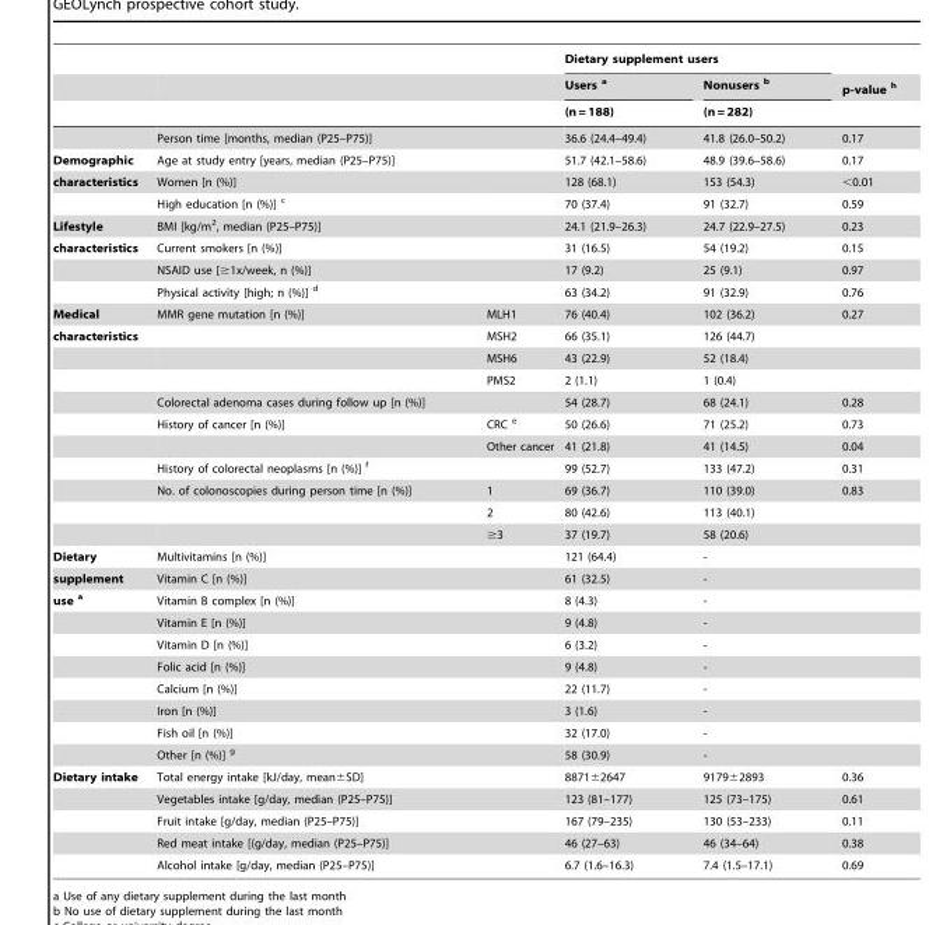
<table><thead><tr><td rowspan="3"></td><td rowspan="3"></td><td rowspan="3"></td><td colspan="2">Dietary supplement users</td><td rowspan="3">p-value <sup>h</sup></td></tr><tr><td rowspan="2">Users <sup>a</sup> (n = 188)</td><td rowspan="2">Nonusers <sup>b</sup> (n = 282)</td></tr><tr></tr></thead><tbody><tr><td></td><td>Person time [months, median (P25–P75)]</td><td></td><td>36.6 (24.4–49.4)</td><td>41.8 (26.0–50.2)</td><td>0.17</td></tr><tr><td>Demographic</td><td>Age at study entry [years, median (P25–P75)]</td><td></td><td>51.7 (42.1–58.6)</td><td>48.9 (39.6–58.6)</td><td>0.17</td></tr><tr><td rowspan="2">characteristics</td><td>Women [n (%)]</td><td></td><td>128 (68.1)</td><td>153 (54.3)</td><td>&lt;0.01</td></tr><tr><td>High education [n (%)] <sup>c</sup></td><td></td><td>70 (37.4)</td><td>91 (32.7)</td><td>0.59</td></tr><tr><td>Lifestyle</td><td>BMI [kg/m<sup>2</sup>, median (P25–P75)]</td><td></td><td>24.1 (21.9–26.3)</td><td>24.7 (22.9–27.5)</td><td>0.23</td></tr><tr><td rowspan="3">characteristics</td><td>Current smokers [n (%)]</td><td></td><td>31 (16.5)</td><td>54 (19.2)</td><td>0.15</td></tr><tr><td>NSAID use [≥1x/week, n (%)]</td><td></td><td>17 (9.2)</td><td>25 (9.1)</td><td>0.97</td></tr><tr><td>Physical activity [high; n (%)] <sup>d</sup></td><td></td><td>63 (34.2)</td><td>91 (32.9)</td><td>0.76</td></tr><tr><td>Medical</td><td>MMR gene mutation [n (%)]</td><td>MLH1</td><td>76 (40.4)</td><td>102 (36.2)</td><td>0.27</td></tr><tr><td rowspan="10">characteristics</td><td></td><td>MSH2</td><td>66 (35.1)</td><td>126 (44.7)</td><td></td></tr><tr><td></td><td>MSH6</td><td>43 (22.9)</td><td>52 (18.4)</td><td></td></tr><tr><td></td><td>PMS2</td><td>2 (1.1)</td><td>1 (0.4)</td><td></td></tr><tr><td>Colorectal adenoma cases during follow up [n (%)]</td><td></td><td>54 (28.7)</td><td>68 (24.1)</td><td>0.28</td></tr><tr><td>History of cancer [n (%)]</td><td>CRC <sup>e</sup></td><td>50 (26.6)</td><td>71 (25.2)</td><td>0.73</td></tr><tr><td></td><td>Other cancer</td><td>41 (21.8)</td><td>41 (14.5)</td><td>0.04</td></tr><tr><td>History of colorectal neoplasms [n (%)] <sup>f</sup></td><td></td><td>99 (52.7)</td><td>133 (47.2)</td><td>0.31</td></tr><tr><td>No. of colonoscopies during person time [n (%)]</td><td>1</td><td>69 (36.7)</td><td>110 (39.0)</td><td>0.83</td></tr><tr><td></td><td>2</td><td>80 (42.6)</td><td>113 (40.1)</td><td></td></tr><tr><td></td><td>≥3</td><td>37 (19.7)</td><td>58 (20.6)</td><td></td></tr><tr><td>Dietary</td><td>Multivitamins [n (%)]</td><td></td><td>121 (64.4)</td><td>-</td><td></td></tr><tr><td>supplement</td><td>Vitamin C [n (%)]</td><td></td><td>61 (32.5)</td><td>-</td><td></td></tr><tr><td rowspan="8">use <sup>a</sup></td><td>Vitamin B complex [n (%)]</td><td></td><td>8 (4.3)</td><td>-</td><td></td></tr><tr><td>Vitamin E [n (%)]</td><td></td><td>9 (4.8)</td><td>-</td><td></td></tr><tr><td>Vitamin D [n (%)]</td><td></td><td>6 (3.2)</td><td>-</td><td></td></tr><tr><td>Folic acid [n (%)]</td><td></td><td>9 (4.8)</td><td>-</td><td></td></tr><tr><td>Calcium [n (%)]</td><td></td><td>22 (11.7)</td><td>-</td><td></td></tr><tr><td>Iron [n (%)]</td><td></td><td>3 (1.6)</td><td>-</td><td></td></tr><tr><td>Fish oil [n (%)]</td><td></td><td>32 (17.0)</td><td>-</td><td></td></tr><tr><td>Other [n (%)] <sup>g</sup></td><td></td><td>58 (30.9)</td><td>-</td><td></td></tr><tr><td rowspan="5">Dietary intake</td><td>Total energy intake [kJ/day, mean±SD]</td><td></td><td>8871±2647</td><td>9179±2893</td><td>0.36</td></tr><tr><td>Vegetables intake [g/day, median (P25–P75)]</td><td></td><td>123 (81–177)</td><td>125 (73–175)</td><td>0.61</td></tr><tr><td>Fruit intake [g/day, median (P25–P75)]</td><td></td><td>167 (79–235)</td><td>130 (53–233)</td><td>0.11</td></tr><tr><td>Red meat intake [(g/day, median (P25–P75)]</td><td></td><td>46 (27–63)</td><td>46 (34–64)</td><td>0.38</td></tr><tr><td>Alcohol intake [g/day, median (P25–P75)]</td><td></td><td>6.7 (1.6–16.3)</td><td>7.4 (1.5–17.1)</td><td>0.69</td></tr></tbody></table>